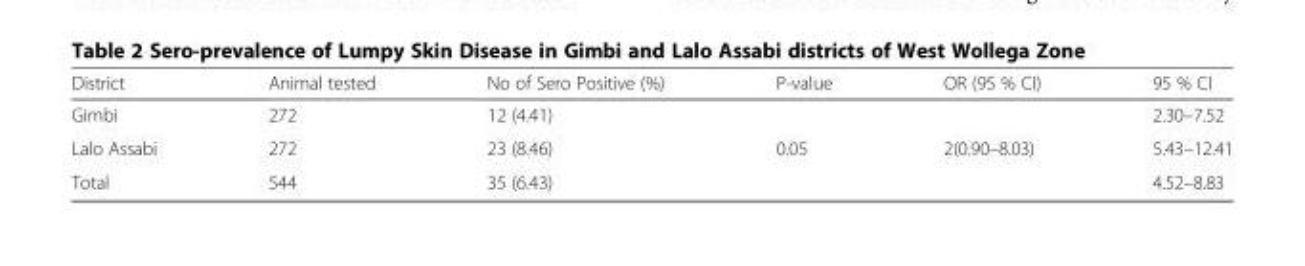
<table><thead><tr><td>District</td><td>Animal tested</td><td>No of Sero Positive (%)</td><td>P-value</td><td>OR (95 % CI)</td><td>95 % CI</td></tr></thead><tbody><tr><td>Gimbi</td><td>272</td><td>12 (4.41)</td><td></td><td></td><td>2.30–7.52</td></tr><tr><td>Lalo Assabi</td><td>272</td><td>23 (8.46)</td><td>0.05</td><td>2(0.90–8.03)</td><td>5.43–12.41</td></tr><tr><td>Total</td><td>544</td><td>35 (6.43)</td><td></td><td></td><td>4.52–8.83</td></tr></tbody></table>